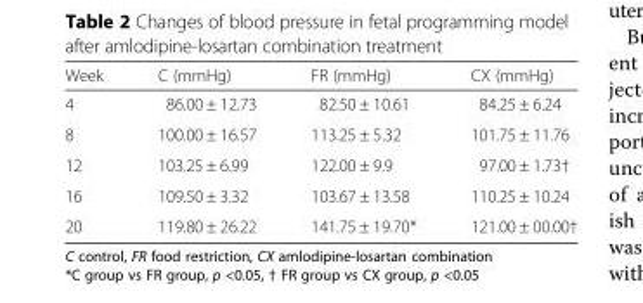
<table><thead><tr><td>Week</td><td>C (mmHg)</td><td>FR (mmHg)</td><td>CX (mmHg)</td></tr></thead><tbody><tr><td>4</td><td>86.00 ± 12.73</td><td>82.50 ± 10.61</td><td>84.25 ± 6.24</td></tr><tr><td>8</td><td>100.00 ± 16.57</td><td>113.25 ± 5.32</td><td>101.75 ± 11.76</td></tr><tr><td>12</td><td>103.25 ± 6.99</td><td>122.00 ± 9.9</td><td>97.00 ± 1.73†</td></tr><tr><td>16</td><td>109.50 ± 3.32</td><td>103.67 ± 13.58</td><td>110.25 ± 10.24</td></tr><tr><td>20</td><td>119.80 ± 26.22</td><td>141.75 ± 19.70*</td><td>121.00 ± 00.00†</td></tr></tbody></table>